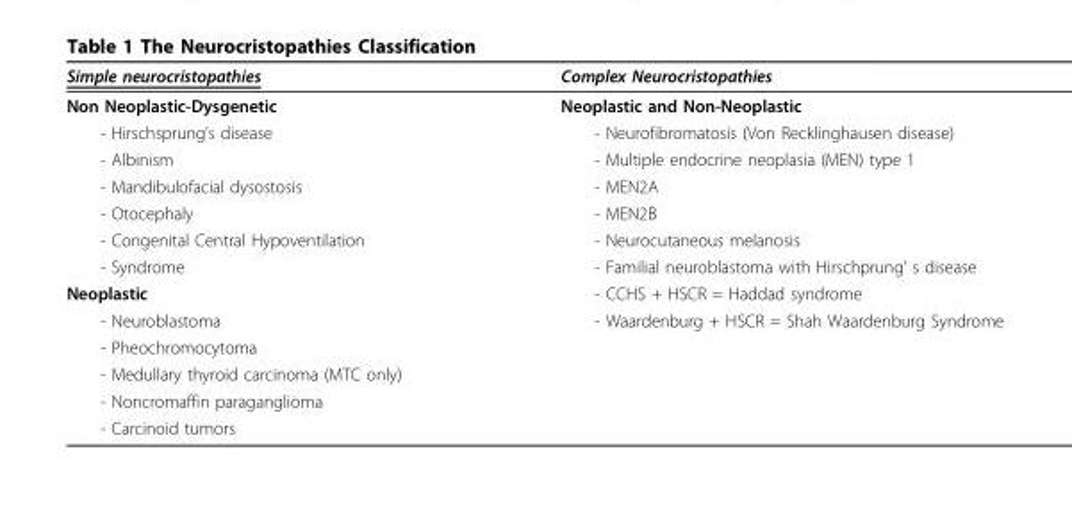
<table><thead><tr><td>Simple neurocristopathies</td><td>Complex Neurocristopathies</td></tr></thead><tbody><tr><td>Non Neoplastic-Dysgenetic</td><td>Neoplastic and Non-Neoplastic</td></tr><tr><td>- Hirschsprung’s disease</td><td>- Neurofibromatosis (Von Recklinghausen disease)</td></tr><tr><td>- Albinism</td><td>- Multiple endocrine neoplasia (MEN) type 1</td></tr><tr><td>- Mandibulofacial dysostosis</td><td>- MEN2A</td></tr><tr><td>- Otocephaly</td><td>- MEN2B</td></tr><tr><td>- Congenital Central Hypoventilation</td><td>- Neurocutaneous melanosis</td></tr><tr><td>- Syndrome</td><td>- Familial neuroblastoma with Hirschprung’ s disease</td></tr><tr><td>Neoplastic</td><td>- CCHS + HSCR = Haddad syndrome</td></tr><tr><td>- Neuroblastoma</td><td>- Waardenburg + HSCR = Shah Waardenburg Syndrome</td></tr><tr><td colspan="2">- Pheochromocytoma</td></tr><tr><td colspan="2">- Medullary thyroid carcinoma (MTC only)</td></tr><tr><td colspan="2">- Noncromaffin paraganglioma</td></tr><tr><td>- Carcinoid tumors</td><td></td></tr></tbody></table>